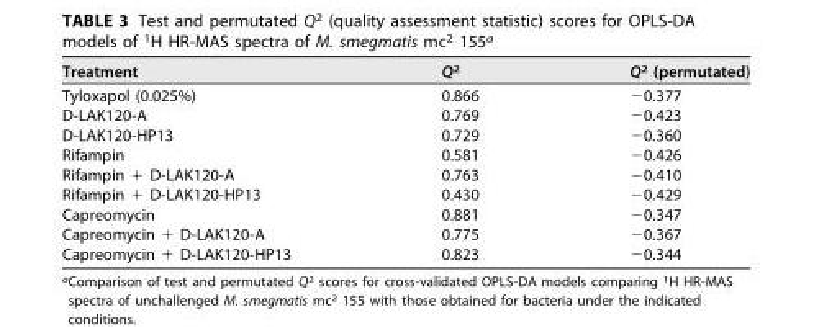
<table><thead><tr><td>Treatment</td><td>Q<sup>2</sup></td><td>Q<sup>2</sup> (permutated)</td></tr></thead><tbody><tr><td>Tyloxapol (0.025%)</td><td>0.866</td><td>−0.377</td></tr><tr><td>D-LAK120-A</td><td>0.769</td><td>−0.423</td></tr><tr><td>D-LAK120-HP13</td><td>0.729</td><td>−0.360</td></tr><tr><td>Rifampin</td><td>0.581</td><td>−0.426</td></tr><tr><td>Rifampin + D-LAK120-A</td><td>0.763</td><td>−0.410</td></tr><tr><td>Rifampin + D-LAK120-HP13</td><td>0.430</td><td>−0.429</td></tr><tr><td>Capreomycin</td><td>0.881</td><td>−0.347</td></tr><tr><td>Capreomycin + D-LAK120-A</td><td>0.775</td><td>−0.367</td></tr><tr><td>Capreomycin + D-LAK120-HP13</td><td>0.823</td><td>−0.344</td></tr></tbody></table>